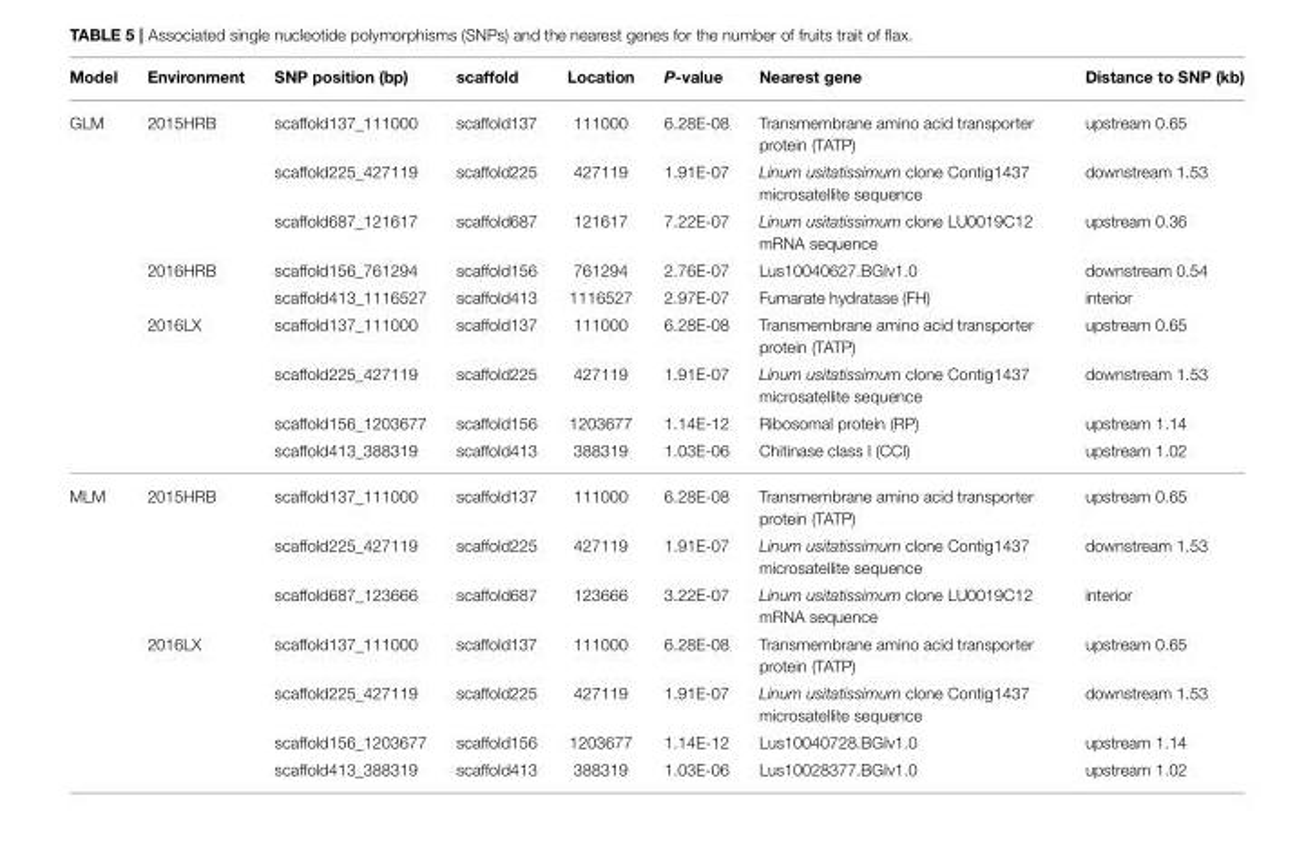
<table><thead><tr><td>Model</td><td>Environment</td><td>SNP position (bp)</td><td>scaffold</td><td>Location</td><td>P-value</td><td>Nearest gene</td><td>Distance to SNP (kb)</td></tr></thead><tbody><tr><td rowspan="9">GLM</td><td>2015HRB</td><td>scaffold137_111000</td><td>scaffold137</td><td>111000</td><td>6.28E-08</td><td>Transmembrane amino acid transporter protein (TATP)</td><td>upstream 0.65</td></tr><tr><td></td><td>scaffold225_427119</td><td>scaffold225</td><td>427119</td><td>1.91E-07</td><td>Linum usitatissimum clone Contig1437 microsatellite sequence</td><td>downstream 1.53</td></tr><tr><td></td><td>scaffold687_121617</td><td>scaffold687</td><td>121617</td><td>7.22E-07</td><td>Linum usitatissimum clone LU0019C12 mRNA sequence</td><td>upstream 0.36</td></tr><tr><td>2016HRB</td><td>scaffold156_761294</td><td>scaffold156</td><td>761294</td><td>2.76E-07</td><td>Lus10040627.BGIv1.0</td><td>downstream 0.54</td></tr><tr><td></td><td>scaffold413_1116527</td><td>scaffold413</td><td>1116527</td><td>2.97E-07</td><td>Fumarate hydratase (FH)</td><td>interior</td></tr><tr><td>2016LX</td><td>scaffold137_111000</td><td>scaffold137</td><td>111000</td><td>6.28E-08</td><td>Transmembrane amino acid transporter protein (TATP)</td><td>upstream 0.65</td></tr><tr><td></td><td>scaffold225_427119</td><td>scaffold225</td><td>427119</td><td>1.91E-07</td><td>Linum usitatissimum clone Contig1437 microsatellite sequence</td><td>downstream 1.53</td></tr><tr><td></td><td>scaffold156_1203677</td><td>scaffold156</td><td>1203677</td><td>1.14E-12</td><td>Ribosomal protein (RP)</td><td>upstream 1.14</td></tr><tr><td></td><td>scaffold413_388319</td><td>scaffold413</td><td>388319</td><td>1.03E-06</td><td>Chitinase class I (CCI)</td><td>upstream 1.02</td></tr><tr><td rowspan="7">MLM</td><td>2015HRB</td><td>scaffold137_111000</td><td>scaffold137</td><td>111000</td><td>6.28E-08</td><td>Transmembrane amino acid transporter protein (TATP)</td><td>upstream 0.65</td></tr><tr><td></td><td>scaffold225_427119</td><td>scaffold225</td><td>427119</td><td>1.91E-07</td><td>Linum usitatissimum clone Contig1437 microsatellite sequence</td><td>downstream 1.53</td></tr><tr><td></td><td>scaffold687_123666</td><td>scaffold687</td><td>123666</td><td>3.22E-07</td><td>Linum usitatissimum clone LU0019C12 mRNA sequence</td><td>interior</td></tr><tr><td>2016LX</td><td>scaffold137_111000</td><td>scaffold137</td><td>111000</td><td>6.28E-08</td><td>Transmembrane amino acid transporter protein (TATP)</td><td>upstream 0.65</td></tr><tr><td></td><td>scaffold225_427119</td><td>scaffold225</td><td>427119</td><td>1.91E-07</td><td>Linum usitatissimum clone Contig1437 microsatellite sequence</td><td>downstream 1.53</td></tr><tr><td></td><td>scaffold156_1203677</td><td>scaffold156</td><td>1203677</td><td>1.14E-12</td><td>Lus10040728.BGIv1.0</td><td>upstream 1.14</td></tr><tr><td></td><td>scaffold413_388319</td><td>scaffold413</td><td>388319</td><td>1.03E-06</td><td>Lus10028377.BGIv1.0</td><td>upstream 1.02</td></tr></tbody></table>